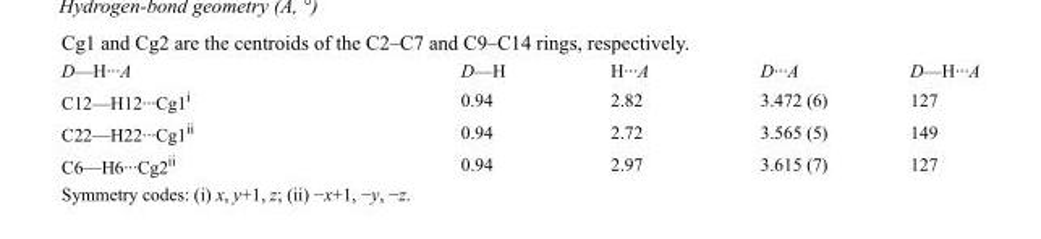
<table><tbody><tr><td>D—H···A</td><td>D—H</td><td>H···A</td><td>D···A</td><td>D—H···A</td></tr><tr><td>C12—H12···Cg1<sup>i</sup></td><td>0.94</td><td>2.82</td><td>3.472 (6)</td><td>127</td></tr><tr><td>C22—H22···Cg1<sup>ii</sup></td><td>0.94</td><td>2.72</td><td>3.565 (5)</td><td>149</td></tr><tr><td>C6—H6···Cg2<sup>ii</sup></td><td>0.94</td><td>2.97</td><td>3.615 (7)</td><td>127</td></tr></tbody></table>